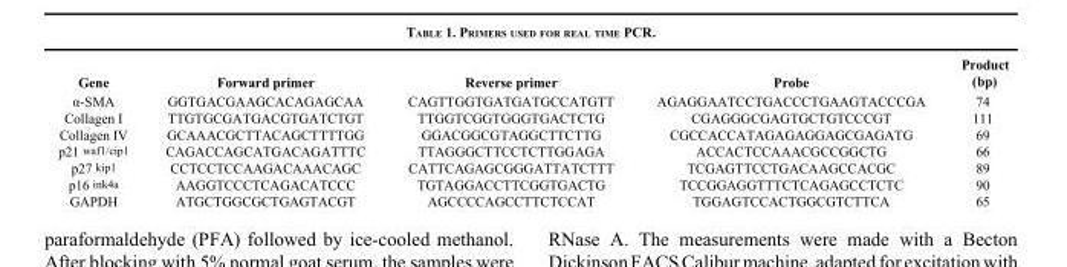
<table><thead><tr><td>Gene</td><td>Forward primer</td><td>Reverse primer</td><td>Probe</td><td>Product (bp)</td></tr></thead><tbody><tr><td>α-SMA</td><td>GGTGACGAAGCACAGAGCAA</td><td>CAGTTGGTGATGATGCCATGTT</td><td>AGAGGAATCCTGACCCTGAAGTACCCGA</td><td>74</td></tr><tr><td>Collagen I</td><td>TTGTGCGATGACGTGATCTGT</td><td>TTGGTCGGTGGGTGACTCTG</td><td>CGAGGGCGAGTGCTGTCCCGT</td><td>111</td></tr><tr><td>Collagen IV</td><td>GCAAACGCTTACAGCTTTTGG</td><td>GGACGGCGTAGGCTTCTTG</td><td>CGCCACCATAGAGAGGAGCGAGATG</td><td>69</td></tr><tr><td>p21 <sup>waf1/cip1</sup></td><td>CAGACCAGCATGACAGATTTC</td><td>TTAGGGCTTCCTCTTGGAGA</td><td>ACCACTCCAAACGCCGGCTG</td><td>66</td></tr><tr><td>p27 <sup>kip1</sup></td><td>CCTCCTCCAAGACAAACAGC</td><td>CATTCAGAGCGGGATTATCTTT</td><td>TCGAGTTCCTGACAAGCCACGC</td><td>89</td></tr><tr><td>p16 <sup>ink4a</sup></td><td>AAGGTCCCTCAGACATCCC</td><td>TGTAGGACCTTCGGTGACTG</td><td>TCCGGAGGTTTCTCAGAGCCTCTC</td><td>90</td></tr><tr><td>GAPDH</td><td>ATGCTGGCGCTGAGTACGT</td><td>AGCCCCAGCCTTCTCCAT</td><td>TGGAGTCCACTGGCGTCTTCA</td><td>65</td></tr></tbody></table>